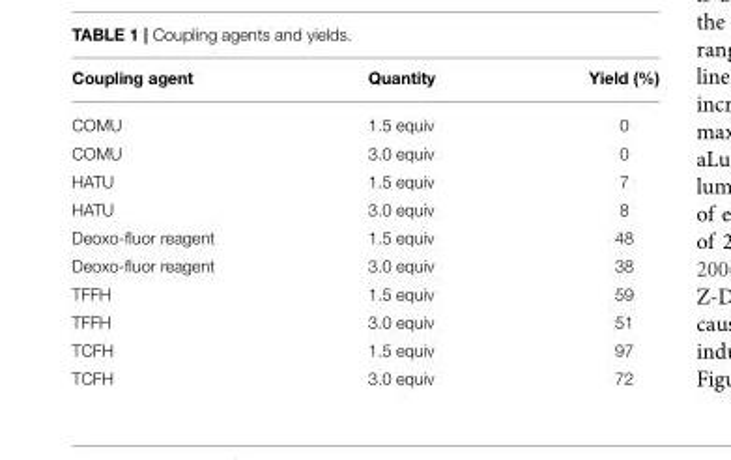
<table><thead><tr><td>Coupling agent</td><td>Quantity</td><td>Yield (%)</td></tr></thead><tbody><tr><td>COMU</td><td>1.5 equiv</td><td>0</td></tr><tr><td>COMU</td><td>3.0 equiv</td><td>0</td></tr><tr><td>HATU</td><td>1.5 equiv</td><td>7</td></tr><tr><td>HATU</td><td>3.0 equiv</td><td>8</td></tr><tr><td>Deoxo-fluor reagent</td><td>1.5 equiv</td><td>48</td></tr><tr><td>Deoxo-fluor reagent</td><td>3.0 equiv</td><td>38</td></tr><tr><td>TFFH</td><td>1.5 equiv</td><td>59</td></tr><tr><td>TFFH</td><td>3.0 equiv</td><td>51</td></tr><tr><td>TCFH</td><td>1.5 equiv</td><td>97</td></tr><tr><td>TCFH</td><td>3.0 equiv</td><td>72</td></tr></tbody></table>